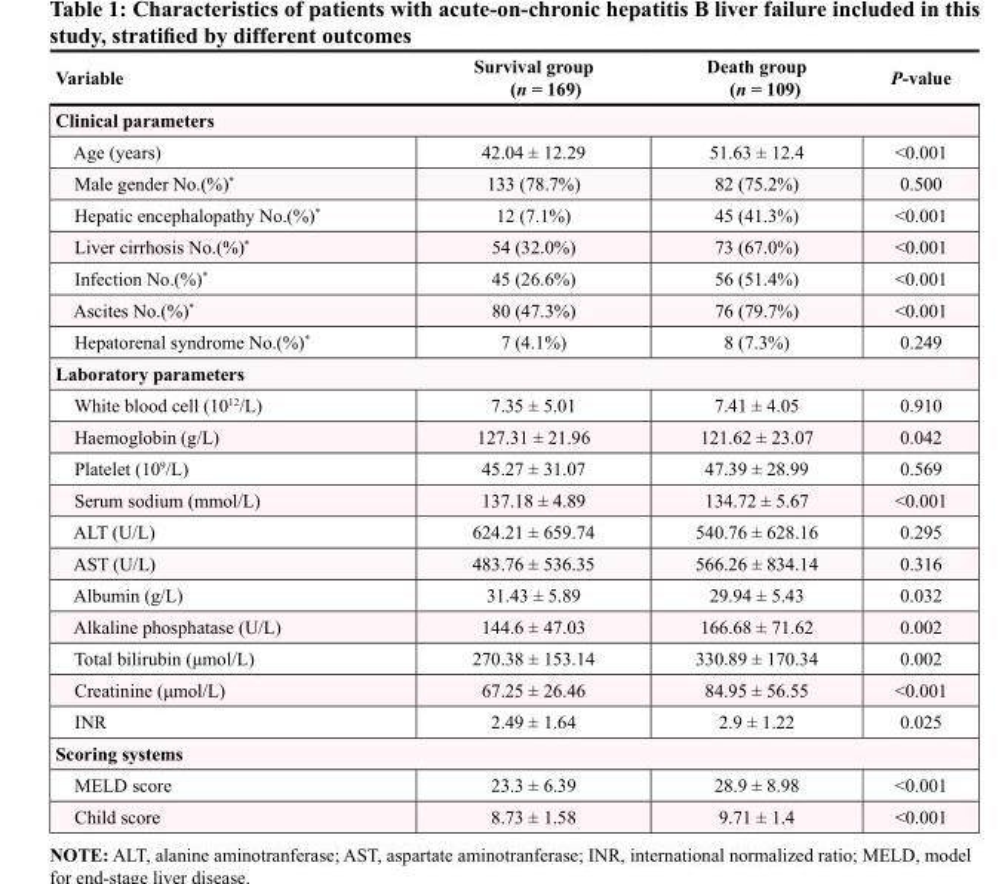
<table><thead><tr><td>Variable</td><td>Survival group (n = 169)</td><td>Death group (n = 109)</td><td>P-value</td></tr></thead><tbody><tr><td colspan="4">Clinical parameters</td></tr><tr><td>Age (years)</td><td>42.04 ± 12.29</td><td>51.63 ± 12.4</td><td>&lt;0.001</td></tr><tr><td>Male gender No.(%)*</td><td>133 (78.7%)</td><td>82 (75.2%)</td><td>0.500</td></tr><tr><td>Hepatic encephalopathy No.(%)*</td><td>12 (7.1%)</td><td>45 (41.3%)</td><td>&lt;0.001</td></tr><tr><td>Liver cirrhosis No.(%)*</td><td>54 (32.0%)</td><td>73 (67.0%)</td><td>&lt;0.001</td></tr><tr><td>Infection No.(%)*</td><td>45 (26.6%)</td><td>56 (51.4%)</td><td>&lt;0.001</td></tr><tr><td>Ascites No.(%)*</td><td>80 (47.3%)</td><td>76 (79.7%)</td><td>&lt;0.001</td></tr><tr><td>Hepatorenal syndrome No.(%)*</td><td>7 (4.1%)</td><td>8 (7.3%)</td><td>0.249</td></tr><tr><td colspan="4">Laboratory parameters</td></tr><tr><td>White blood cell (10<sup>12</sup>/L)</td><td>7.35 ± 5.01</td><td>7.41 ± 4.05</td><td>0.910</td></tr><tr><td>Haemoglobin (g/L)</td><td>127.31 ± 21.96</td><td>121.62 ± 23.07</td><td>0.042</td></tr><tr><td>Platelet (10<sup>9</sup>/L)</td><td>45.27 ± 31.07</td><td>47.39 ± 28.99</td><td>0.569</td></tr><tr><td>Serum sodium (mmol/L)</td><td>137.18 ± 4.89</td><td>134.72 ± 5.67</td><td>&lt;0.001</td></tr><tr><td>ALT (U/L)</td><td>624.21 ± 659.74</td><td>540.76 ± 628.16</td><td>0.295</td></tr><tr><td>AST (U/L)</td><td>483.76 ± 536.35</td><td>566.26 ± 834.14</td><td>0.316</td></tr><tr><td>Albumin (g/L)</td><td>31.43 ± 5.89</td><td>29.94 ± 5.43</td><td>0.032</td></tr><tr><td>Alkaline phosphatase (U/L)</td><td>144.6 ± 47.03</td><td>166.68 ± 71.62</td><td>0.002</td></tr><tr><td>Total bilirubin (μmol/L)</td><td>270.38 ± 153.14</td><td>330.89 ± 170.34</td><td>0.002</td></tr><tr><td>Creatinine (μmol/L)</td><td>67.25 ± 26.46</td><td>84.95 ± 56.55</td><td>&lt;0.001</td></tr><tr><td>INR</td><td>2.49 ± 1.64</td><td>2.9 ± 1.22</td><td>0.025</td></tr><tr><td colspan="4">Scoring systems</td></tr><tr><td>MELD score</td><td>23.3 ± 6.39</td><td>28.9 ± 8.98</td><td>&lt;0.001</td></tr><tr><td>Child score</td><td>8.73 ± 1.58</td><td>9.71 ± 1.4</td><td>&lt;0.001</td></tr></tbody></table>